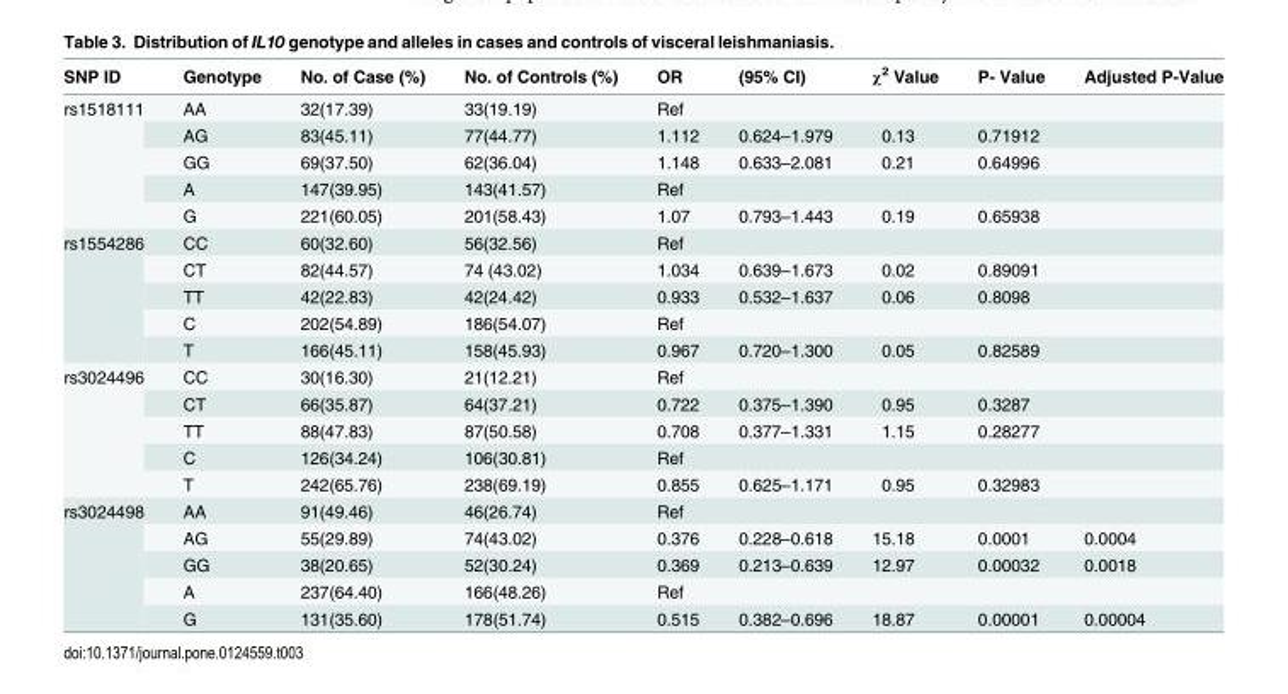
<table><thead><tr><td>SNP ID</td><td>Genotype</td><td>No. of Case (%)</td><td>No. of Controls (%)</td><td>OR</td><td>(95% CI)</td><td>χ<sup>2</sup> Value</td><td>P- Value</td><td>Adjusted P-Value</td></tr></thead><tbody><tr><td rowspan="5">rs1518111</td><td>AA</td><td>32(17.39)</td><td>33(19.19)</td><td>Ref</td><td></td><td></td><td></td><td></td></tr><tr><td>AG</td><td>83(45.11)</td><td>77(44.77)</td><td>1.112</td><td>0.624–1.979</td><td>0.13</td><td>0.71912</td><td></td></tr><tr><td>GG</td><td>69(37.50)</td><td>62(36.04)</td><td>1.148</td><td>0.633–2.081</td><td>0.21</td><td>0.64996</td><td></td></tr><tr><td>A</td><td>147(39.95)</td><td>143(41.57)</td><td>Ref</td><td></td><td></td><td></td><td></td></tr><tr><td>G</td><td>221(60.05)</td><td>201(58.43)</td><td>1.07</td><td>0.793–1.443</td><td>0.19</td><td>0.65938</td><td></td></tr><tr><td rowspan="5">rs1554286</td><td>CC</td><td>60(32.60)</td><td>56(32.56)</td><td>Ref</td><td></td><td></td><td></td><td></td></tr><tr><td>CT</td><td>82(44.57)</td><td>74 (43.02)</td><td>1.034</td><td>0.639–1.673</td><td>0.02</td><td>0.89091</td><td></td></tr><tr><td>TT</td><td>42(22.83)</td><td>42(24.42)</td><td>0.933</td><td>0.532–1.637</td><td>0.06</td><td>0.8098</td><td></td></tr><tr><td>C</td><td>202(54.89)</td><td>186(54.07)</td><td>Ref</td><td></td><td></td><td></td><td></td></tr><tr><td>T</td><td>166(45.11)</td><td>158(45.93)</td><td>0.967</td><td>0.720–1.300</td><td>0.05</td><td>0.82589</td><td></td></tr><tr><td rowspan="5">rs3024496</td><td>CC</td><td>30(16.30)</td><td>21(12.21)</td><td>Ref</td><td></td><td></td><td></td><td></td></tr><tr><td>CT</td><td>66(35.87)</td><td>64(37.21)</td><td>0.722</td><td>0.375–1.390</td><td>0.95</td><td>0.3287</td><td></td></tr><tr><td>TT</td><td>88(47.83)</td><td>87(50.58)</td><td>0.708</td><td>0.377–1.331</td><td>1.15</td><td>0.28277</td><td></td></tr><tr><td>C</td><td>126(34.24)</td><td>106(30.81)</td><td>Ref</td><td></td><td></td><td></td><td></td></tr><tr><td>T</td><td>242(65.76)</td><td>238(69.19)</td><td>0.855</td><td>0.625–1.171</td><td>0.95</td><td>0.32983</td><td></td></tr><tr><td rowspan="5">rs3024498</td><td>AA</td><td>91(49.46)</td><td>46(26.74)</td><td>Ref</td><td></td><td></td><td></td><td></td></tr><tr><td>AG</td><td>55(29.89)</td><td>74(43.02)</td><td>0.376</td><td>0.228–0.618</td><td>15.18</td><td>0.0001</td><td>0.0004</td></tr><tr><td>GG</td><td>38(20.65)</td><td>52(30.24)</td><td>0.369</td><td>0.213–0.639</td><td>12.97</td><td>0.00032</td><td>0.0018</td></tr><tr><td>A</td><td>237(64.40)</td><td>166(48.26)</td><td>Ref</td><td></td><td></td><td></td><td></td></tr><tr><td>G</td><td>131(35.60)</td><td>178(51.74)</td><td>0.515</td><td>0.382–0.696</td><td>18.87</td><td>0.00001</td><td>0.00004</td></tr></tbody></table>